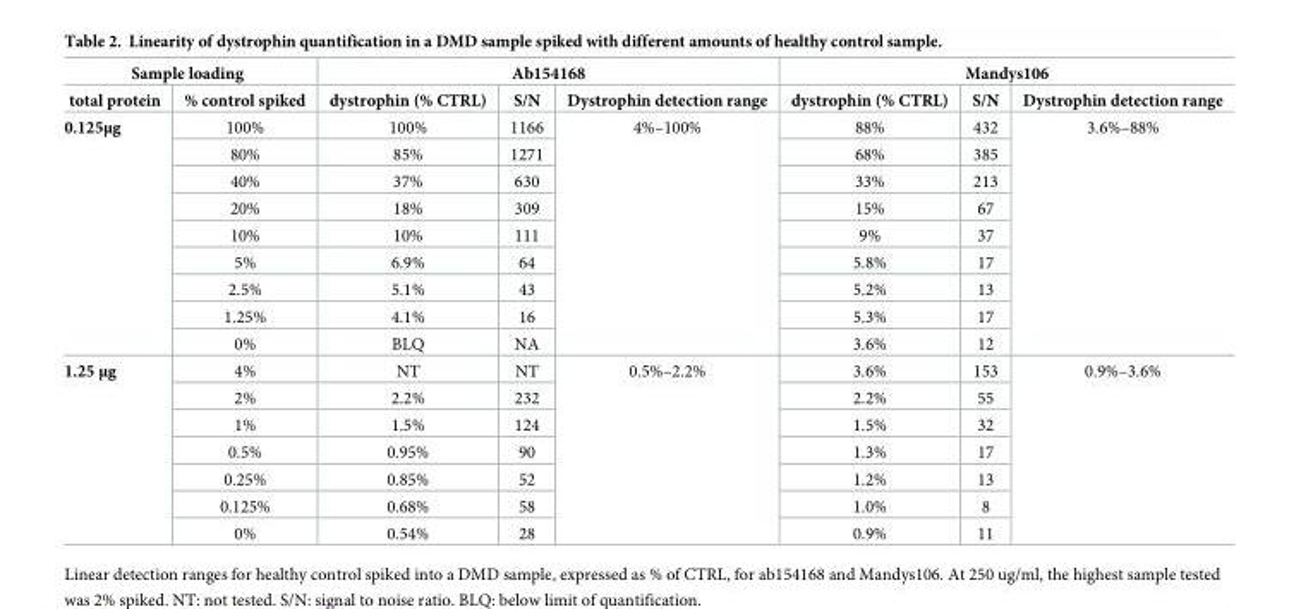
<table><thead><tr><td colspan="2">Sample loading</td><td colspan="3">Ab154168</td><td colspan="3">Mandys106</td></tr><tr><td>total protein</td><td>% control spiked</td><td>dystrophin (% CTRL)</td><td>S/N</td><td>Dystrophin detection range</td><td>dystrophin (% CTRL)</td><td>S/N</td><td>Dystrophin detection range</td></tr></thead><tbody><tr><td rowspan="9">0.125μg</td><td>100%</td><td>100%</td><td>1166</td><td rowspan="9">4%–100%</td><td>88%</td><td>432</td><td rowspan="9">3.6%–88%</td></tr><tr><td>80%</td><td>85%</td><td>1271</td><td>68%</td><td>385</td></tr><tr><td>40%</td><td>37%</td><td>630</td><td>33%</td><td>213</td></tr><tr><td>20%</td><td>18%</td><td>309</td><td>15%</td><td>67</td></tr><tr><td>10%</td><td>10%</td><td>111</td><td>9%</td><td>37</td></tr><tr><td>5%</td><td>6.9%</td><td>64</td><td>5.8%</td><td>17</td></tr><tr><td>2.5%</td><td>5.1%</td><td>43</td><td>5.2%</td><td>13</td></tr><tr><td>1.25%</td><td>4.1%</td><td>16</td><td>5.3%</td><td>17</td></tr><tr><td>0%</td><td>BLQ</td><td>NA</td><td>3.6%</td><td>12</td></tr><tr><td rowspan="7">1.25 μg</td><td>4%</td><td>NT</td><td>NT</td><td rowspan="7">0.5%–2.2%</td><td>3.6%</td><td>153</td><td rowspan="7">0.9%–3.6%</td></tr><tr><td>2%</td><td>2.2%</td><td>232</td><td>2.2%</td><td>55</td></tr><tr><td>1%</td><td>1.5%</td><td>124</td><td>1.5%</td><td>32</td></tr><tr><td>0.5%</td><td>0.95%</td><td>90</td><td>1.3%</td><td>17</td></tr><tr><td>0.25%</td><td>0.85%</td><td>52</td><td>1.2%</td><td>13</td></tr><tr><td>0.125%</td><td>0.68%</td><td>58</td><td>1.0%</td><td>8</td></tr><tr><td>0%</td><td>0.54%</td><td>28</td><td>0.9%</td><td>11</td></tr></tbody></table>